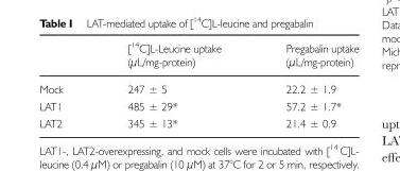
<table><thead><tr><td></td><td>[<sup>14</sup>C]L-Leucine uptake (μL/mg-protein)</td><td>Pregabalin uptake (μL/mg-protein)</td></tr></thead><tbody><tr><td>Mock</td><td>247 ± 5</td><td>22.2 ± 1.9</td></tr><tr><td>LAT1</td><td>485 ± 29*</td><td>57.2 ± 1.7*</td></tr><tr><td>LAT2</td><td>345 ± 13*</td><td>21.4 ± 0.9</td></tr></tbody></table>